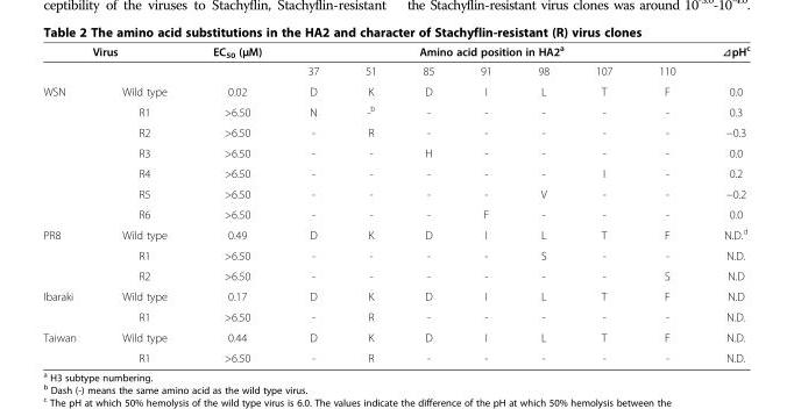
<table><thead><tr><td colspan="2">Virus</td><td rowspan="2">EC<sub>50</sub> (μM)</td><td colspan="7">Amino acid position in HA2<sup>a</sup></td><td rowspan="2">⊿pH<sup>c</sup></td></tr><tr><td></td><td></td><td>37</td><td>51</td><td>85</td><td>91</td><td>98</td><td>107</td><td>110</td></tr></thead><tbody><tr><td rowspan="7">WSN</td><td>Wild type</td><td>0.02</td><td>D</td><td>K</td><td>D</td><td>I</td><td>L</td><td>T</td><td>F</td><td>0.0</td></tr><tr><td>R1</td><td>&gt;6.50</td><td>N</td><td>-<sup>b</sup></td><td>-</td><td>-</td><td>-</td><td>-</td><td>-</td><td>0.3</td></tr><tr><td>R2</td><td>&gt;6.50</td><td>-</td><td>R</td><td>-</td><td>-</td><td>-</td><td>-</td><td>-</td><td>−0.3</td></tr><tr><td>R3</td><td>&gt;6.50</td><td>-</td><td>-</td><td>H</td><td>-</td><td>-</td><td>-</td><td>-</td><td>0.0</td></tr><tr><td>R4</td><td>&gt;6.50</td><td>-</td><td>-</td><td>-</td><td>-</td><td>-</td><td>I</td><td>-</td><td>0.2</td></tr><tr><td>R5</td><td>&gt;6.50</td><td>-</td><td>-</td><td>-</td><td>-</td><td>V</td><td>-</td><td>-</td><td>−0.2</td></tr><tr><td>R6</td><td>&gt;6.50</td><td>-</td><td>-</td><td>-</td><td>F</td><td>-</td><td>-</td><td>-</td><td>0.0</td></tr><tr><td rowspan="3">PR8</td><td>Wild type</td><td>0.49</td><td>D</td><td>K</td><td>D</td><td>I</td><td>L</td><td>T</td><td>F</td><td>N.D.<sup>d</sup></td></tr><tr><td>R1</td><td>&gt;6.50</td><td>-</td><td>-</td><td>-</td><td>-</td><td>S</td><td>-</td><td>-</td><td>N.D.</td></tr><tr><td>R2</td><td>&gt;6.50</td><td>-</td><td>-</td><td>-</td><td>-</td><td>-</td><td>-</td><td>S</td><td>N.D</td></tr><tr><td rowspan="2">Ibaraki</td><td>Wild type</td><td>0.17</td><td>D</td><td>K</td><td>D</td><td>I</td><td>L</td><td>T</td><td>F</td><td>N.D</td></tr><tr><td>R1</td><td>&gt;6.50</td><td>-</td><td>R</td><td>-</td><td>-</td><td>-</td><td>-</td><td>-</td><td>N.D.</td></tr><tr><td rowspan="2">Taiwan</td><td>Wild type</td><td>0.44</td><td>D</td><td>K</td><td>D</td><td>I</td><td>L</td><td>T</td><td>F</td><td>N.D.</td></tr><tr><td>R1</td><td>&gt;6.50</td><td>-</td><td>R</td><td>-</td><td>-</td><td>-</td><td>-</td><td>-</td><td>N.D.</td></tr></tbody></table>